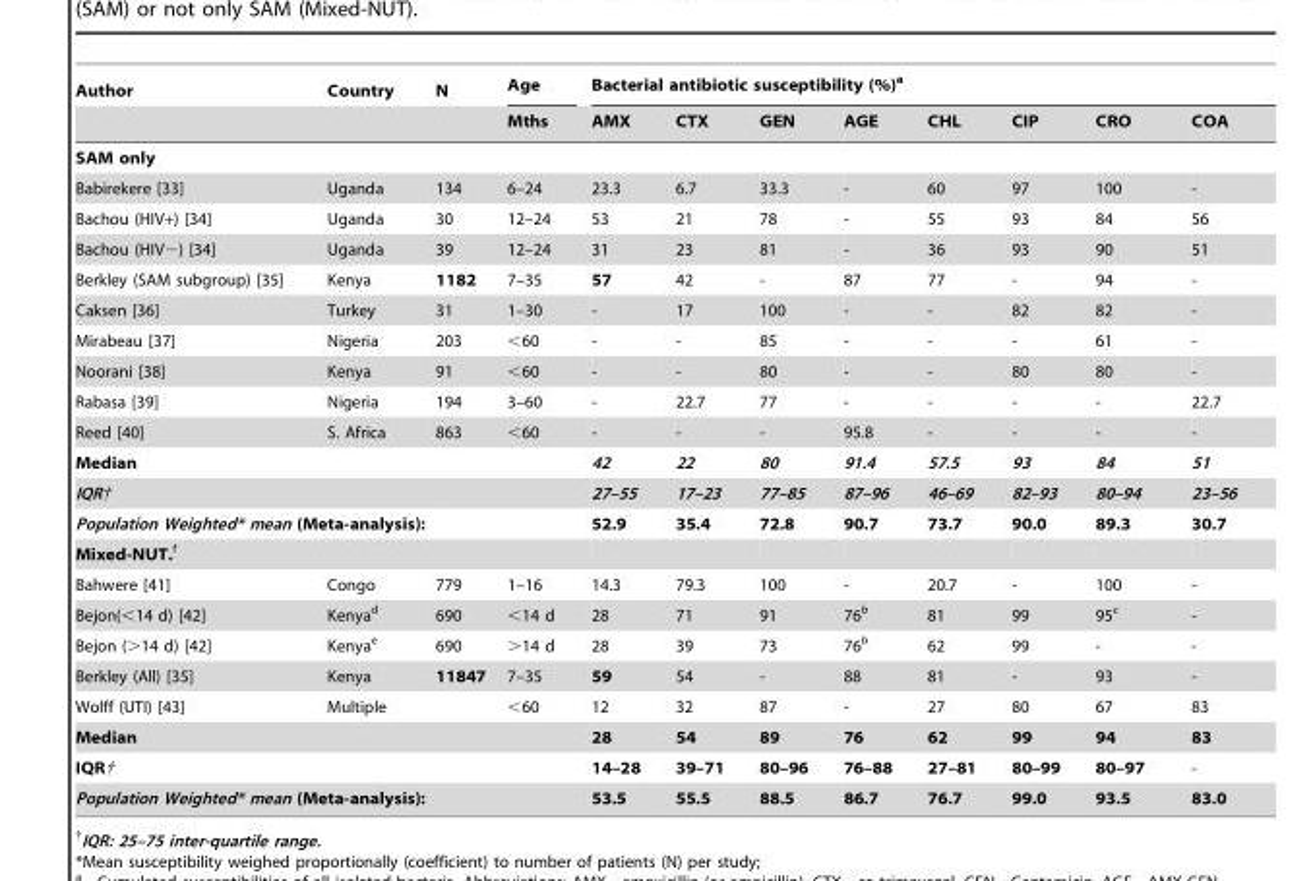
<table><thead><tr><td rowspan="2">Author</td><td rowspan="2">Country</td><td rowspan="2">N</td><td rowspan="2">Age Mths</td><td colspan="8">Bacterial antibiotic susceptibility (%)<sup>a</sup></td></tr><tr><td>AMX</td><td>CTX</td><td>GEN</td><td>AGE</td><td>CHL</td><td>CIP</td><td>CRO</td><td>COA</td></tr></thead><tbody><tr><td colspan="12">SAM only</td></tr><tr><td>Babirekere [33]</td><td>Uganda</td><td>134</td><td>6–24</td><td>23.3</td><td>6.7</td><td>33.3</td><td>-</td><td>60</td><td>97</td><td>100</td><td>-</td></tr><tr><td>Bachou (HIV+) [34]</td><td>Uganda</td><td>30</td><td>12–24</td><td>53</td><td>21</td><td>78</td><td>-</td><td>55</td><td>93</td><td>84</td><td>56</td></tr><tr><td>Bachou (HIV−) [34]</td><td>Uganda</td><td>39</td><td>12–24</td><td>31</td><td>23</td><td>81</td><td>-</td><td>36</td><td>93</td><td>90</td><td>51</td></tr><tr><td>Berkley (SAM subgroup) [35]</td><td>Kenya</td><td>1182</td><td>7–35</td><td>57</td><td>42</td><td>-</td><td>87</td><td>77</td><td>-</td><td>94</td><td>-</td></tr><tr><td>Caksen [36]</td><td>Turkey</td><td>31</td><td>1–30</td><td>-</td><td>17</td><td>100</td><td>-</td><td>-</td><td>82</td><td>82</td><td>-</td></tr><tr><td>Mirabeau [37]</td><td>Nigeria</td><td>203</td><td>&lt;60</td><td>-</td><td>-</td><td>85</td><td>-</td><td>-</td><td>-</td><td>61</td><td>-</td></tr><tr><td>Noorani [38]</td><td>Kenya</td><td>91</td><td>&lt;60</td><td>-</td><td>-</td><td>80</td><td>-</td><td>-</td><td>80</td><td>80</td><td>-</td></tr><tr><td>Rabasa [39]</td><td>Nigeria</td><td>194</td><td>3–60</td><td>-</td><td>22.7</td><td>77</td><td>-</td><td>-</td><td>-</td><td>-</td><td>22.7</td></tr><tr><td>Reed [40]</td><td>S. Africa</td><td>863</td><td>&lt;60</td><td>-</td><td>-</td><td>-</td><td>95.8</td><td>-</td><td>-</td><td>-</td><td>-</td></tr><tr><td>Median</td><td></td><td></td><td></td><td>42</td><td>22</td><td>80</td><td>91.4</td><td>57.5</td><td>93</td><td>84</td><td>51</td></tr><tr><td>IQR†</td><td></td><td></td><td></td><td>27–55</td><td>17–23</td><td>77–85</td><td>87–96</td><td>46–69</td><td>82–93</td><td>80–94</td><td>23–56</td></tr><tr><td colspan="4">Population Weighted* mean (Meta-analysis):</td><td>52.9</td><td>35.4</td><td>72.8</td><td>90.7</td><td>73.7</td><td>90.0</td><td>89.3</td><td>30.7</td></tr><tr><td colspan="12">Mixed-NUT.<sup>f</sup></td></tr><tr><td>Bahwere [41]</td><td>Congo</td><td>779</td><td>1–16</td><td>14.3</td><td>79.3</td><td>100</td><td>-</td><td>20.7</td><td>-</td><td>100</td><td>-</td></tr><tr><td>Bejon(&lt;14 d) [42]</td><td>Kenya<sup>d</sup></td><td>690</td><td>&lt;14 d</td><td>28</td><td>71</td><td>91</td><td>76<sup>b</sup></td><td>81</td><td>99</td><td>95<sup>c</sup></td><td>-</td></tr><tr><td>Bejon (&gt;14 d) [42]</td><td>Kenya<sup>e</sup></td><td>690</td><td>&gt;14 d</td><td>28</td><td>39</td><td>73</td><td>76<sup>b</sup></td><td>62</td><td>99</td><td>-</td><td>-</td></tr><tr><td>Berkley (All) [35]</td><td>Kenya</td><td>11847</td><td>7–35</td><td>59</td><td>54</td><td>-</td><td>88</td><td>81</td><td>-</td><td>93</td><td>-</td></tr><tr><td>Wolff (UTI) [43]</td><td>Multiple</td><td></td><td>&lt;60</td><td>12</td><td>32</td><td>87</td><td>-</td><td>27</td><td>80</td><td>67</td><td>83</td></tr><tr><td>Median</td><td></td><td></td><td></td><td>28</td><td>54</td><td>89</td><td>76</td><td>62</td><td>99</td><td>94</td><td>83</td></tr><tr><td>IQR†</td><td></td><td></td><td></td><td>14–28</td><td>39–71</td><td>80–96</td><td>76–88</td><td>27–81</td><td>80–99</td><td>80–97</td><td>-</td></tr><tr><td colspan="4">Population Weighted* mean (Meta-analysis):</td><td>53.5</td><td>55.5</td><td>88.5</td><td>86.7</td><td>76.7</td><td>99.0</td><td>93.5</td><td>83.0</td></tr></tbody></table>